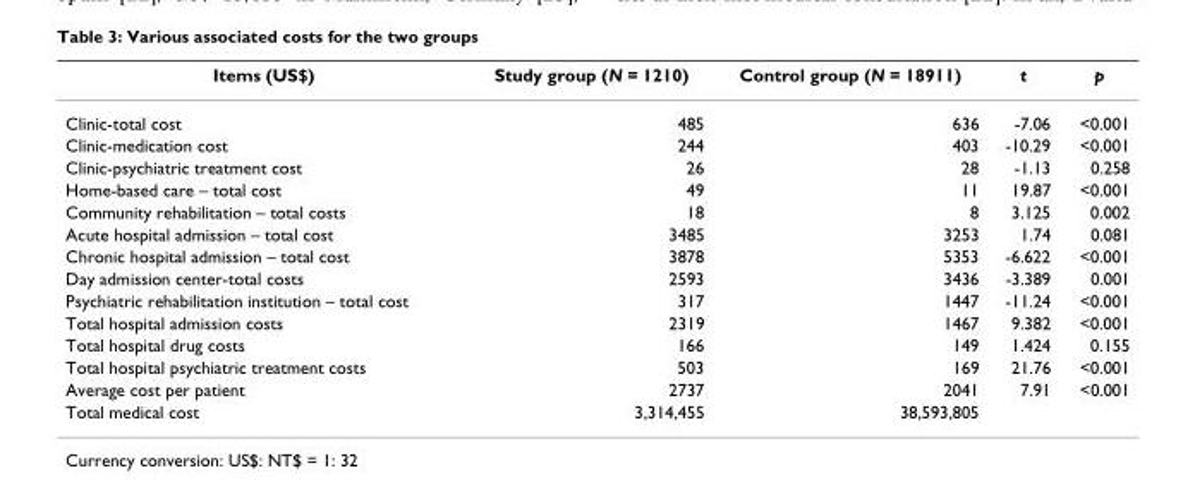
<table><thead><tr><td>Items (US$)</td><td>Study group (N = 1210)</td><td>Control group (N = 18911)</td><td>t</td><td>p</td></tr></thead><tbody><tr><td>Clinic-total cost</td><td>485</td><td>636</td><td>-7.06</td><td>&lt;0.001</td></tr><tr><td>Clinic-medication cost</td><td>244</td><td>403</td><td>-10.29</td><td>&lt;0.001</td></tr><tr><td>Clinic-psychiatric treatment cost</td><td>26</td><td>28</td><td>-1.13</td><td>0.258</td></tr><tr><td>Home-based care – total cost</td><td>49</td><td>11</td><td>19.87</td><td>&lt;0.001</td></tr><tr><td>Community rehabilitation – total costs</td><td>18</td><td>8</td><td>3.125</td><td>0.002</td></tr><tr><td>Acute hospital admission – total cost</td><td>3485</td><td>3253</td><td>1.74</td><td>0.081</td></tr><tr><td>Chronic hospital admission – total cost</td><td>3878</td><td>5353</td><td>-6.622</td><td>&lt;0.001</td></tr><tr><td>Day admission center-total costs</td><td>2593</td><td>3436</td><td>-3.389</td><td>0.001</td></tr><tr><td>Psychiatric rehabilitation institution – total cost</td><td>317</td><td>1447</td><td>-11.24</td><td>&lt;0.001</td></tr><tr><td>Total hospital admission costs</td><td>2319</td><td>1467</td><td>9.382</td><td>&lt;0.001</td></tr><tr><td>Total hospital drug costs</td><td>166</td><td>149</td><td>1.424</td><td>0.155</td></tr><tr><td>Total hospital psychiatric treatment costs</td><td>503</td><td>169</td><td>21.76</td><td>&lt;0.001</td></tr><tr><td>Average cost per patient</td><td>2737</td><td>2041</td><td>7.91</td><td>&lt;0.001</td></tr><tr><td>Total medical cost</td><td>3,314,455</td><td>38,593,805</td><td></td><td></td></tr></tbody></table>